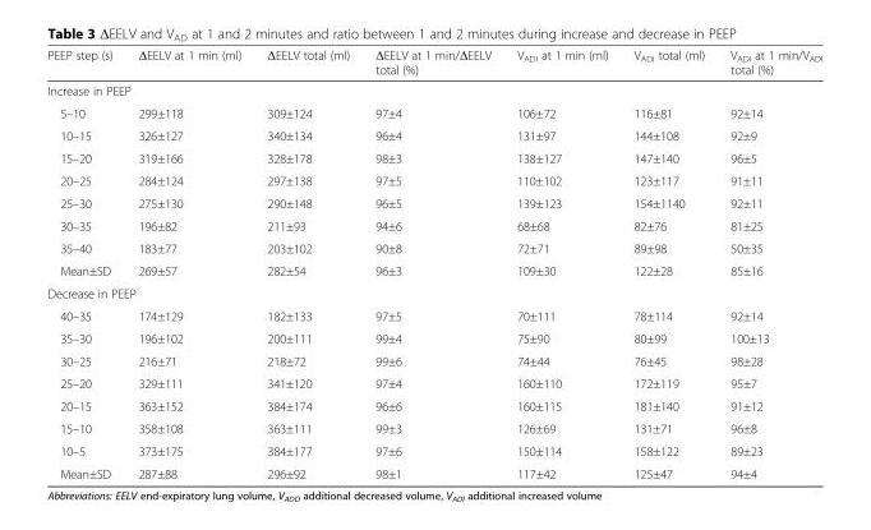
<table><thead><tr><td>PEEP step (s)</td><td>ΔEELV at 1 min (ml)</td><td>ΔEELV total (ml)</td><td>ΔEELV at 1 min/ΔEELV total (%)</td><td>V<sub>ADI</sub> at 1 min (ml)</td><td>V<sub>ADI</sub> total (ml)</td><td>V<sub>ADI</sub> at 1 min/V<sub>ADI</sub> total (%)</td></tr></thead><tbody><tr><td colspan="7">Increase in PEEP</td></tr><tr><td>5–10</td><td>299±118</td><td>309±124</td><td>97±4</td><td>106±72</td><td>116±81</td><td>92±14</td></tr><tr><td>10–15</td><td>326±127</td><td>340±134</td><td>96±4</td><td>131±97</td><td>144±108</td><td>92±9</td></tr><tr><td>15–20</td><td>319±166</td><td>328±178</td><td>98±3</td><td>138±127</td><td>147±140</td><td>96±5</td></tr><tr><td>20–25</td><td>284±124</td><td>297±138</td><td>97±5</td><td>110±102</td><td>123±117</td><td>91±11</td></tr><tr><td>25–30</td><td>275±130</td><td>290±148</td><td>96±5</td><td>139±123</td><td>154±1140</td><td>92±11</td></tr><tr><td>30–35</td><td>196±82</td><td>211±93</td><td>94±6</td><td>68±68</td><td>82±76</td><td>81±25</td></tr><tr><td>35–40</td><td>183±77</td><td>203±102</td><td>90±8</td><td>72±71</td><td>89±98</td><td>50±35</td></tr><tr><td>Mean±SD</td><td>269±57</td><td>282±54</td><td>96±3</td><td>109±30</td><td>122±28</td><td>85±16</td></tr><tr><td colspan="7">Decrease in PEEP</td></tr><tr><td>40–35</td><td>174±129</td><td>182±133</td><td>97±5</td><td>70±111</td><td>78±114</td><td>92±14</td></tr><tr><td>35–30</td><td>196±102</td><td>200±111</td><td>99±4</td><td>75±90</td><td>80±99</td><td>100±13</td></tr><tr><td>30–25</td><td>216±71</td><td>218±72</td><td>99±6</td><td>74±44</td><td>76±45</td><td>98±28</td></tr><tr><td>25–20</td><td>329±111</td><td>341±120</td><td>97±4</td><td>160±110</td><td>172±119</td><td>95±7</td></tr><tr><td>20–15</td><td>363±152</td><td>384±174</td><td>96±6</td><td>160±115</td><td>181±140</td><td>91±12</td></tr><tr><td>15–10</td><td>358±108</td><td>363±111</td><td>99±3</td><td>126±69</td><td>131±71</td><td>96±8</td></tr><tr><td>10–5</td><td>373±175</td><td>384±177</td><td>97±6</td><td>150±114</td><td>158±122</td><td>89±23</td></tr><tr><td>Mean±SD</td><td>287±88</td><td>296±92</td><td>98±1</td><td>117±42</td><td>125±47</td><td>94±4</td></tr></tbody></table>